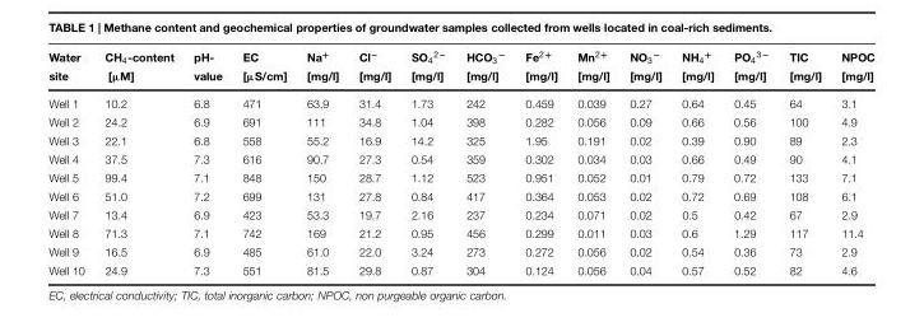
<table><thead><tr><td rowspan="2">Water site</td><td rowspan="2">CH<sub>4</sub>-content [µM]</td><td rowspan="2">pH- value</td><td rowspan="2">EC [µS/cm]</td><td rowspan="2">Na<sup>+</sup> [mg/l]</td><td rowspan="2">Cl<sup>−</sup> [mg/l]</td><td rowspan="2">SO<sub>4</sub><sup>2−</sup> [mg/l]</td><td rowspan="2">HCO<sub>3</sub><sup>−</sup> [mg/l]</td><td rowspan="2">Fe<sup>2+</sup> [mg/l]</td><td rowspan="2">Mn<sup>2+</sup> [mg/l]</td><td rowspan="2">NO<sub>3</sub><sup>−</sup> [mg/l]</td><td rowspan="2">NH<sub>4</sub><sup>+</sup> [mg/l]</td><td rowspan="2">PO<sub>4</sub><sup>3−</sup> [mg/l]</td><td rowspan="2">TIC [mg/l]</td><td rowspan="2">NPOC [mg/l]</td></tr><tr></tr></thead><tbody><tr><td>Well 1</td><td>10.2</td><td>6.8</td><td>471</td><td>63.9</td><td>31.4</td><td>1.73</td><td>242</td><td>0.459</td><td>0.039</td><td>0.27</td><td>0.64</td><td>0.45</td><td>64</td><td>3.1</td></tr><tr><td>Well 2</td><td>24.2</td><td>6.9</td><td>691</td><td>111</td><td>34.8</td><td>1.04</td><td>398</td><td>0.282</td><td>0.056</td><td>0.09</td><td>0.66</td><td>0.56</td><td>100</td><td>4.9</td></tr><tr><td>Well 3</td><td>22.1</td><td>6.8</td><td>558</td><td>55.2</td><td>16.9</td><td>14.2</td><td>325</td><td>1.95</td><td>0.191</td><td>0.02</td><td>0.39</td><td>0.90</td><td>89</td><td>2.3</td></tr><tr><td>Well 4</td><td>37.5</td><td>7.3</td><td>616</td><td>90.7</td><td>27.3</td><td>0.54</td><td>359</td><td>0.302</td><td>0.034</td><td>0.03</td><td>0.66</td><td>0.49</td><td>90</td><td>4.1</td></tr><tr><td>Well 5</td><td>99.4</td><td>7.1</td><td>848</td><td>150</td><td>28.7</td><td>1.12</td><td>523</td><td>0.951</td><td>0.052</td><td>0.01</td><td>0.79</td><td>0.72</td><td>133</td><td>7.1</td></tr><tr><td>Well 6</td><td>51.0</td><td>7.2</td><td>699</td><td>131</td><td>27.8</td><td>0.84</td><td>417</td><td>0.364</td><td>0.053</td><td>0.02</td><td>0.72</td><td>0.69</td><td>108</td><td>6.1</td></tr><tr><td>Well 7</td><td>13.4</td><td>6.9</td><td>423</td><td>53.3</td><td>19.7</td><td>2.16</td><td>237</td><td>0.234</td><td>0.071</td><td>0.02</td><td>0.5</td><td>0.42</td><td>67</td><td>2.9</td></tr><tr><td>Well 8</td><td>71.3</td><td>7.1</td><td>742</td><td>169</td><td>21.2</td><td>0.95</td><td>456</td><td>0.299</td><td>0.011</td><td>0.03</td><td>0.6</td><td>1.29</td><td>117</td><td>11.4</td></tr><tr><td>Well 9</td><td>16.5</td><td>6.9</td><td>485</td><td>61.0</td><td>22.0</td><td>3.24</td><td>273</td><td>0.272</td><td>0.056</td><td>0.02</td><td>0.54</td><td>0.36</td><td>73</td><td>2.9</td></tr><tr><td>Well 10</td><td>24.9</td><td>7.3</td><td>551</td><td>81.5</td><td>29.8</td><td>0.87</td><td>304</td><td>0.124</td><td>0.056</td><td>0.04</td><td>0.57</td><td>0.52</td><td>82</td><td>4.6</td></tr></tbody></table>